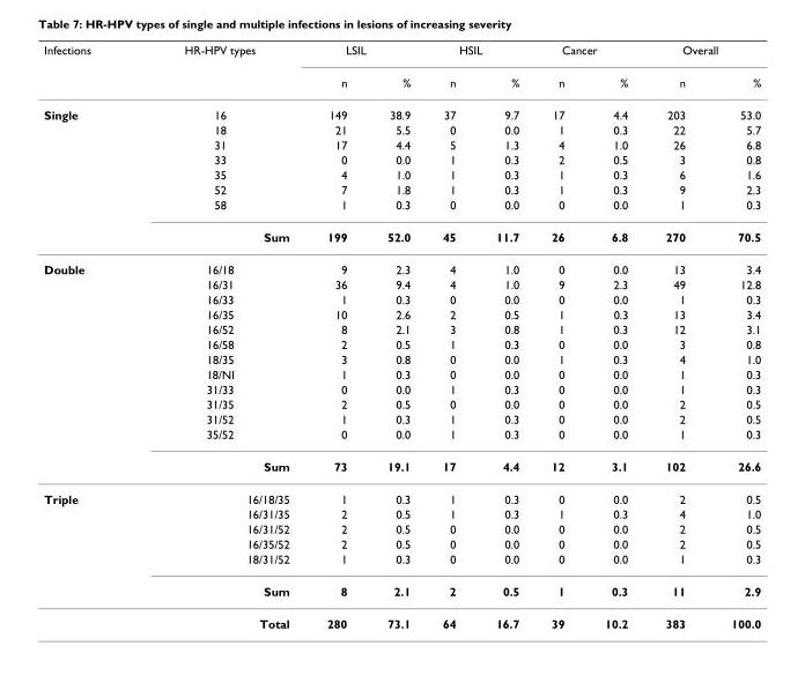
<table><thead><tr><td rowspan="2">Infections</td><td rowspan="2">HR-HPV types</td><td colspan="2">LSIL</td><td colspan="2">HSIL</td><td colspan="2">Cancer</td><td colspan="2">Overall</td></tr><tr><td>n</td><td>%</td><td>n</td><td>%</td><td>n</td><td>%</td><td>n</td><td>%</td></tr></thead><tbody><tr><td rowspan="8">Single</td><td>16</td><td>149</td><td>38.9</td><td>37</td><td>9.7</td><td>17</td><td>4.4</td><td>203</td><td>53.0</td></tr><tr><td>18</td><td>21</td><td>5.5</td><td>0</td><td>0.0</td><td>1</td><td>0.3</td><td>22</td><td>5.7</td></tr><tr><td>31</td><td>17</td><td>4.4</td><td>5</td><td>1.3</td><td>4</td><td>1.0</td><td>26</td><td>6.8</td></tr><tr><td>33</td><td>0</td><td>0.0</td><td>1</td><td>0.3</td><td>2</td><td>0.5</td><td>3</td><td>0.8</td></tr><tr><td>35</td><td>4</td><td>1.0</td><td>1</td><td>0.3</td><td>1</td><td>0.3</td><td>6</td><td>1.6</td></tr><tr><td>52</td><td>7</td><td>1.8</td><td>1</td><td>0.3</td><td>1</td><td>0.3</td><td>9</td><td>2.3</td></tr><tr><td>58</td><td>1</td><td>0.3</td><td>0</td><td>0.0</td><td>0</td><td>0.0</td><td>1</td><td>0.3</td></tr><tr><td>Sum</td><td>199</td><td>52.0</td><td>45</td><td>11.7</td><td>26</td><td>6.8</td><td>270</td><td>70.5</td></tr><tr><td rowspan="13">Double</td><td>16/18</td><td>9</td><td>2.3</td><td>4</td><td>1.0</td><td>0</td><td>0.0</td><td>13</td><td>3.4</td></tr><tr><td>16/31</td><td>36</td><td>9.4</td><td>4</td><td>1.0</td><td>9</td><td>2.3</td><td>49</td><td>12.8</td></tr><tr><td>16/33</td><td>1</td><td>0.3</td><td>0</td><td>0.0</td><td>0</td><td>0.0</td><td>1</td><td>0.3</td></tr><tr><td>16/35</td><td>10</td><td>2.6</td><td>2</td><td>0.5</td><td>1</td><td>0.3</td><td>13</td><td>3.4</td></tr><tr><td>16/52</td><td>8</td><td>2.1</td><td>3</td><td>0.8</td><td>1</td><td>0.3</td><td>12</td><td>3.1</td></tr><tr><td>16/58</td><td>2</td><td>0.5</td><td>1</td><td>0.3</td><td>0</td><td>0.0</td><td>3</td><td>0.8</td></tr><tr><td>18/35</td><td>3</td><td>0.8</td><td>0</td><td>0.0</td><td>1</td><td>0.3</td><td>4</td><td>1.0</td></tr><tr><td>18/NI</td><td>1</td><td>0.3</td><td>0</td><td>0.0</td><td>0</td><td>0.0</td><td>1</td><td>0.3</td></tr><tr><td>31/33</td><td>0</td><td>0.0</td><td>1</td><td>0.3</td><td>0</td><td>0.0</td><td>1</td><td>0.3</td></tr><tr><td>31/35</td><td>2</td><td>0.5</td><td>0</td><td>0.0</td><td>0</td><td>0.0</td><td>2</td><td>0.5</td></tr><tr><td>31/52</td><td>1</td><td>0.3</td><td>1</td><td>0.3</td><td>0</td><td>0.0</td><td>2</td><td>0.5</td></tr><tr><td>35/52</td><td>0</td><td>0.0</td><td>1</td><td>0.3</td><td>0</td><td>0.0</td><td>1</td><td>0.3</td></tr><tr><td>Sum</td><td>73</td><td>19.1</td><td>17</td><td>4.4</td><td>12</td><td>3.1</td><td>102</td><td>26.6</td></tr><tr><td rowspan="7">Triple</td><td>16/18/35</td><td>1</td><td>0.3</td><td>1</td><td>0.3</td><td>0</td><td>0.0</td><td>2</td><td>0.5</td></tr><tr><td>16/31/35</td><td>2</td><td>0.5</td><td>1</td><td>0.3</td><td>1</td><td>0.3</td><td>4</td><td>1.0</td></tr><tr><td>16/31/52</td><td>2</td><td>0.5</td><td>0</td><td>0.0</td><td>0</td><td>0.0</td><td>2</td><td>0.5</td></tr><tr><td>16/35/52</td><td>2</td><td>0.5</td><td>0</td><td>0.0</td><td>0</td><td>0.0</td><td>2</td><td>0.5</td></tr><tr><td>18/31/52</td><td>1</td><td>0.3</td><td>0</td><td>0.0</td><td>0</td><td>0.0</td><td>1</td><td>0.3</td></tr><tr><td>Sum</td><td>8</td><td>2.1</td><td>2</td><td>0.5</td><td>1</td><td>0.3</td><td>11</td><td>2.9</td></tr><tr><td>Total</td><td>280</td><td>73.1</td><td>64</td><td>16.7</td><td>39</td><td>10.2</td><td>383</td><td>100.0</td></tr></tbody></table>